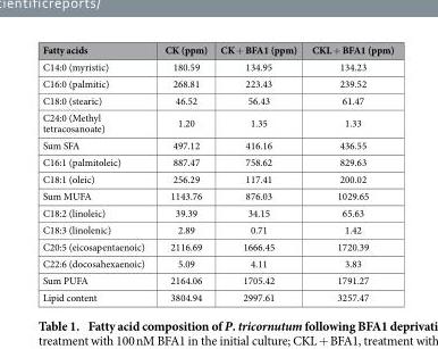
<table><thead><tr><td>Fatty acids</td><td>CK (ppm)</td><td>CK + BFA1 (ppm)</td><td>CKL + BFA1 (ppm)</td></tr></thead><tbody><tr><td>C14:0 (myristic)</td><td>180.59</td><td>134.95</td><td>134.23</td></tr><tr><td>C16:0 (palmitic)</td><td>268.81</td><td>223.43</td><td>239.52</td></tr><tr><td>C18:0 (stearic)</td><td>46.52</td><td>56.43</td><td>61.47</td></tr><tr><td>C24:0 (Methyl tetracosanoate)</td><td>1.20</td><td>1.35</td><td>1.33</td></tr><tr><td>Sum SFA</td><td>497.12</td><td>416.16</td><td>436.55</td></tr><tr><td>C16:1 (palmitoleic)</td><td>887.47</td><td>758.62</td><td>829.63</td></tr><tr><td>C18:1 (oleic)</td><td>256.29</td><td>117.41</td><td>200.02</td></tr><tr><td>Sum MUFA</td><td>1143.76</td><td>876.03</td><td>1029.65</td></tr><tr><td>C18:2 (linoleic)</td><td>39.39</td><td>34.15</td><td>65.63</td></tr><tr><td>C18:3 (linolenic)</td><td>2.89</td><td>0.71</td><td>1.42</td></tr><tr><td>C20:5 (eicosapentaenoic)</td><td>2116.69</td><td>1666.45</td><td>1720.39</td></tr><tr><td>C22:6 (docosahexaenoic)</td><td>5.09</td><td>4.11</td><td>3.83</td></tr><tr><td>Sum PUFA</td><td>2164.06</td><td>1705.42</td><td>1791.27</td></tr><tr><td>Lipid content</td><td>3804.94</td><td>2997.61</td><td>3257.47</td></tr></tbody></table>